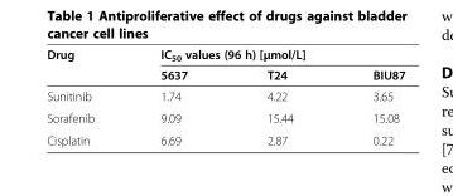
<table><thead><tr><td rowspan="2">Drug</td><td colspan="3">IC<sub>50</sub> values (96 h) [μmol/L]</td></tr><tr><td>5637</td><td>T24</td><td>BIU87</td></tr></thead><tbody><tr><td>Sunitinib</td><td>1.74</td><td>4.22</td><td>3.65</td></tr><tr><td>Sorafenib</td><td>9.09</td><td>15.44</td><td>15.08</td></tr><tr><td>Cisplatin</td><td>6.69</td><td>2.87</td><td>0.22</td></tr></tbody></table>